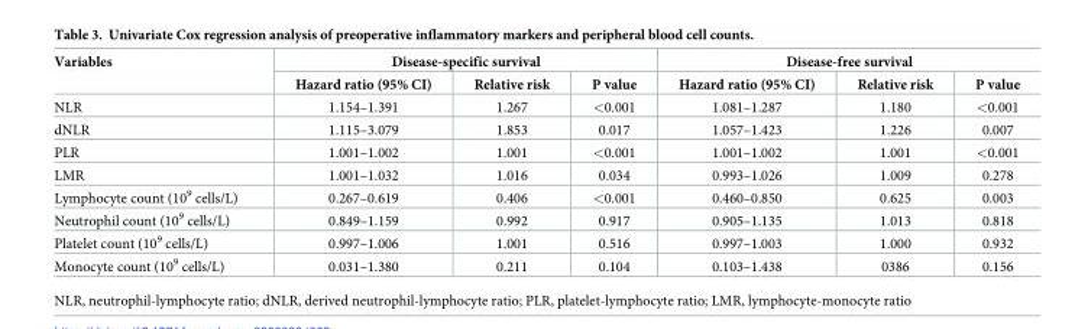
<table><thead><tr><td rowspan="2">Variables</td><td colspan="3">Disease-specific survival</td><td colspan="3">Disease-free survival</td></tr><tr><td>Hazard ratio (95% CI)</td><td>Relative risk</td><td>P value</td><td>Hazard ratio (95% CI)</td><td>Relative risk</td><td>P value</td></tr></thead><tbody><tr><td>NLR</td><td>1.154–1.391</td><td>1.267</td><td>&lt;0.001</td><td>1.081–1.287</td><td>1.180</td><td>&lt;0.001</td></tr><tr><td>dNLR</td><td>1.115–3.079</td><td>1.853</td><td>0.017</td><td>1.057–1.423</td><td>1.226</td><td>0.007</td></tr><tr><td>PLR</td><td>1.001–1.002</td><td>1.001</td><td>&lt;0.001</td><td>1.001–1.002</td><td>1.001</td><td>&lt;0.001</td></tr><tr><td>LMR</td><td>1.001–1.032</td><td>1.016</td><td>0.034</td><td>0.993–1.026</td><td>1.009</td><td>0.278</td></tr><tr><td>Lymphocyte count (10<sup>9</sup> cells/L)</td><td>0.267–0.619</td><td>0.406</td><td>&lt;0.001</td><td>0.460–0.850</td><td>0.625</td><td>0.003</td></tr><tr><td>Neutrophil count (10<sup>9</sup> cells/L)</td><td>0.849–1.159</td><td>0.992</td><td>0.917</td><td>0.905–1.135</td><td>1.013</td><td>0.818</td></tr><tr><td>Platelet count (10<sup>9</sup> cells/L)</td><td>0.997–1.006</td><td>1.001</td><td>0.516</td><td>0.997–1.003</td><td>1.000</td><td>0.932</td></tr><tr><td>Monocyte count (10<sup>9</sup> cells/L)</td><td>0.031–1.380</td><td>0.211</td><td>0.104</td><td>0.103–1.438</td><td>0386</td><td>0.156</td></tr></tbody></table>